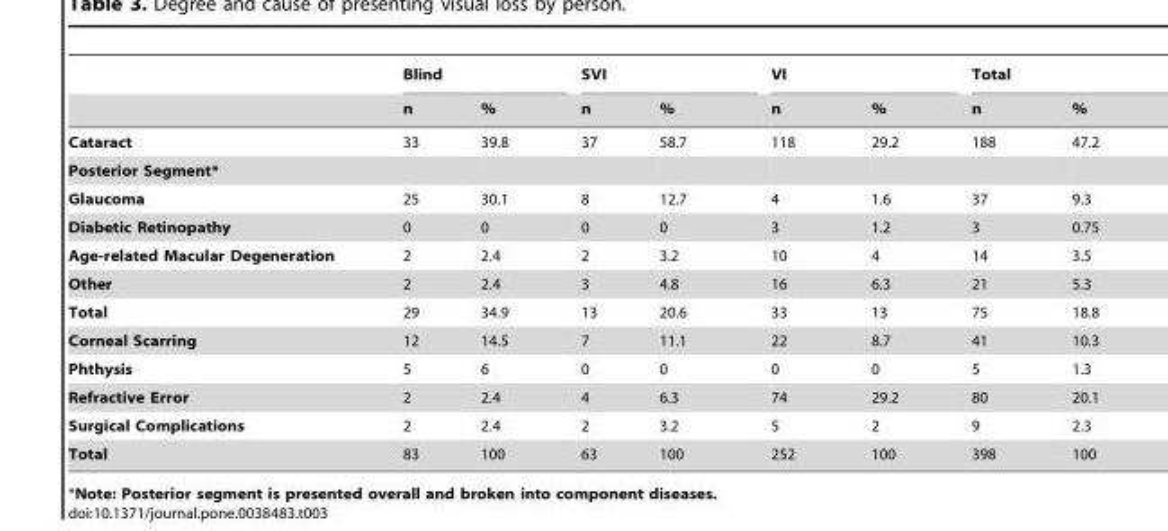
<table><thead><tr><td rowspan="2"></td><td colspan="2">Blind</td><td colspan="2">SVI</td><td colspan="2">VI</td><td colspan="2">Total</td></tr><tr><td>n</td><td>%</td><td>n</td><td>%</td><td>n</td><td>%</td><td>n</td><td>%</td></tr></thead><tbody><tr><td>Cataract</td><td>33</td><td>39.8</td><td>37</td><td>58.7</td><td>118</td><td>29.2</td><td>188</td><td>47.2</td></tr><tr><td colspan="9">Posterior Segment*</td></tr><tr><td>Glaucoma</td><td>25</td><td>30.1</td><td>8</td><td>12.7</td><td>4</td><td>1.6</td><td>37</td><td>9.3</td></tr><tr><td>Diabetic Retinopathy</td><td>0</td><td>0</td><td>0</td><td>0</td><td>3</td><td>1.2</td><td>3</td><td>0.75</td></tr><tr><td>Age-related Macular Degeneration</td><td>2</td><td>2.4</td><td>2</td><td>3.2</td><td>10</td><td>4</td><td>14</td><td>3.5</td></tr><tr><td>Other</td><td>2</td><td>2.4</td><td>3</td><td>4.8</td><td>16</td><td>6.3</td><td>21</td><td>5.3</td></tr><tr><td>Total</td><td>29</td><td>34.9</td><td>13</td><td>20.6</td><td>33</td><td>13</td><td>75</td><td>18.8</td></tr><tr><td>Corneal Scarring</td><td>12</td><td>14.5</td><td>7</td><td>11.1</td><td>22</td><td>8.7</td><td>41</td><td>10.3</td></tr><tr><td>Phthysis</td><td>5</td><td>6</td><td>0</td><td>0</td><td>0</td><td>0</td><td>5</td><td>1.3</td></tr><tr><td>Refractive Error</td><td>2</td><td>2.4</td><td>4</td><td>6.3</td><td>74</td><td>29.2</td><td>80</td><td>20.1</td></tr><tr><td>Surgical Complications</td><td>2</td><td>2.4</td><td>2</td><td>3.2</td><td>5</td><td>2</td><td>9</td><td>2.3</td></tr><tr><td>Total</td><td>83</td><td>100</td><td>63</td><td>100</td><td>252</td><td>100</td><td>398</td><td>100</td></tr></tbody></table>